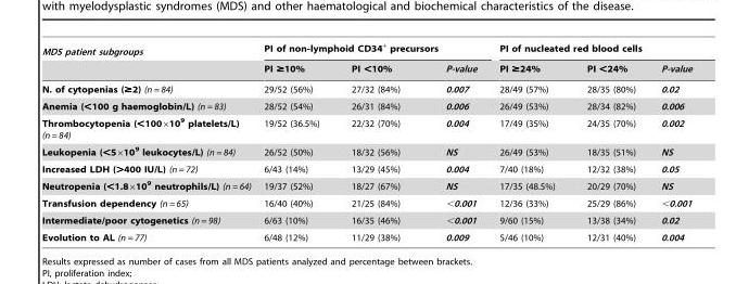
<table><thead><tr><td rowspan="2">MDS patient subgroups</td><td colspan="3">PI of non-lymphoid CD34<sup>+</sup> precursors</td><td colspan="3">PI of nucleated red blood cells</td></tr><tr><td>PI ≥10%</td><td>PI &lt;10%</td><td>P-value</td><td>PI ≥24%</td><td>PI &lt;24%</td><td>P-value</td></tr></thead><tbody><tr><td>N. of cytopenias (≥2) (n = 84)</td><td>29/52 (56%)</td><td>27/32 (84%)</td><td>0.007</td><td>28/49 (57%)</td><td>28/35 (80%)</td><td>0.02</td></tr><tr><td>Anemia (&lt;100 g haemoglobin/L) (n = 83)</td><td>28/52 (54%)</td><td>26/31 (84%)</td><td>0.006</td><td>26/49 (53%)</td><td>28/34 (82%)</td><td>0.006</td></tr><tr><td>Thrombocytopenia (&lt;100×10<sup>9</sup> platelets/L) (n = 84)</td><td>19/52 (36.5%)</td><td>22/32 (70%)</td><td>0.004</td><td>17/49 (35%)</td><td>24/35 (70%)</td><td>0.002</td></tr><tr><td>Leukopenia (&lt;5×10<sup>9</sup> leukocytes/L) (n = 84)</td><td>26/52 (50%)</td><td>18/32 (56%)</td><td>NS</td><td>26/49 (53%)</td><td>18/35 (51%)</td><td>NS</td></tr><tr><td>Increased LDH (&gt;400 IU/L) (n = 72)</td><td>6/43 (14%)</td><td>13/29 (45%)</td><td>0.004</td><td>7/40 (18%)</td><td>12/32 (38%)</td><td>0.05</td></tr><tr><td>Neutropenia (&lt;1.8×10<sup>9</sup> neutrophils/L) (n = 64)</td><td>19/37 (52%)</td><td>18/27 (67%)</td><td>NS</td><td>17/35 (48.5%)</td><td>20/29 (70%)</td><td>NS</td></tr><tr><td>Transfusion dependency (n = 65)</td><td>16/40 (40%)</td><td>21/25 (84%)</td><td>&lt;0.001</td><td>12/36 (33%)</td><td>25/29 (86%)</td><td>&lt;0.001</td></tr><tr><td>Intermediate/poor cytogenetics (n = 98)</td><td>6/63 (10%)</td><td>16/35 (46%)</td><td>&lt;0.001</td><td>9/60 (15%)</td><td>13/38 (34%)</td><td>0.02</td></tr><tr><td>Evolution to AL (n = 77)</td><td>6/48 (12%)</td><td>11/29 (38%)</td><td>0.009</td><td>5/46 (10%)</td><td>12/31 (40%)</td><td>0.004</td></tr></tbody></table>